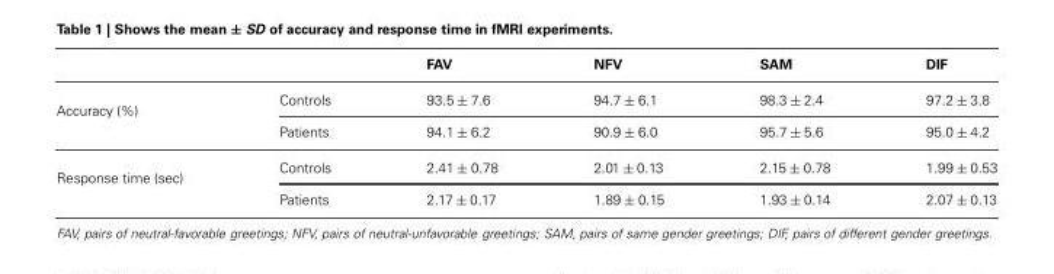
<table><thead><tr><td></td><td></td><td>FAV</td><td>NFV</td><td>SAM</td><td>DIF</td></tr></thead><tbody><tr><td rowspan="2">Accuracy (%)</td><td>Controls</td><td>93.5 ± 7.6</td><td>94.7 ± 6.1</td><td>98.3 ± 2.4</td><td>97.2 ± 3.8</td></tr><tr><td>Patients</td><td>94.1 ± 6.2</td><td>90.9 ± 6.0</td><td>95.7 ± 5.6</td><td>95.0 ± 4.2</td></tr><tr><td rowspan="2">Response time (sec)</td><td>Controls</td><td>2.41 ± 0.78</td><td>2.01 ± 0.13</td><td>2.15 ± 0.78</td><td>1.99 ± 0.53</td></tr><tr><td>Patients</td><td>2.17 ± 0.17</td><td>1.89 ± 0.15</td><td>1.93 ± 0.14</td><td>2.07 ± 0.13</td></tr></tbody></table>